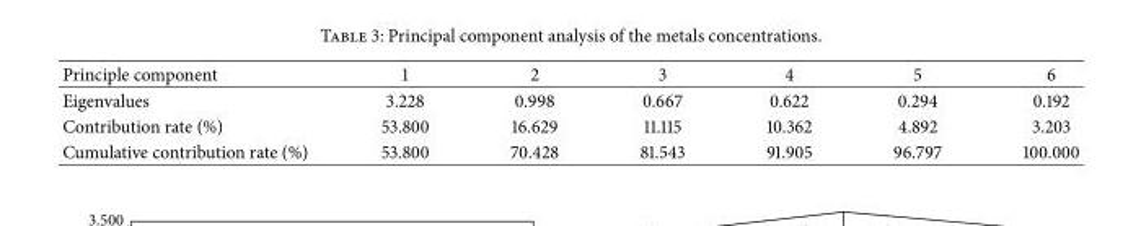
<table><thead><tr><td>Principle component</td><td>1</td><td>2</td><td>3</td><td>4</td><td>5</td><td>6</td></tr></thead><tbody><tr><td>Eigenvalues</td><td>3.228</td><td>0.998</td><td>0.667</td><td>0.622</td><td>0.294</td><td>0.192</td></tr><tr><td>Contribution rate (%)</td><td>53.800</td><td>16.629</td><td>11.115</td><td>10.362</td><td>4.892</td><td>3.203</td></tr><tr><td>Cumulative contribution rate (%)</td><td>53.800</td><td>70.428</td><td>81.543</td><td>91.905</td><td>96.797</td><td>100.000</td></tr></tbody></table>